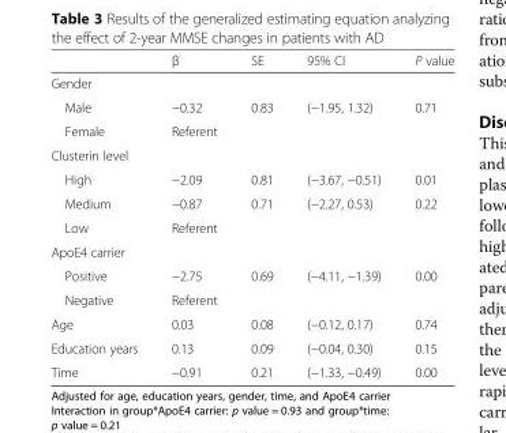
<table><thead><tr><td></td><td>β</td><td>SE</td><td>95% CI</td><td>P value</td></tr></thead><tbody><tr><td colspan="5">Gender</td></tr><tr><td>Male</td><td>−0.32</td><td>0.83</td><td>(−1.95, 1.32)</td><td>0.71</td></tr><tr><td>Female</td><td>Referent</td><td></td><td></td><td></td></tr><tr><td colspan="5">Clusterin level</td></tr><tr><td>High</td><td>−2.09</td><td>0.81</td><td>(−3.67, −0.51)</td><td>0.01</td></tr><tr><td>Medium</td><td>−0.87</td><td>0.71</td><td>(−2.27, 0.53)</td><td>0.22</td></tr><tr><td>Low</td><td>Referent</td><td></td><td></td><td></td></tr><tr><td colspan="5">ApoE4 carrier</td></tr><tr><td>Positive</td><td>−2.75</td><td>0.69</td><td>(−4.11, −1.39)</td><td>0.00</td></tr><tr><td>Negative</td><td>Referent</td><td></td><td></td><td></td></tr><tr><td>Age</td><td>0.03</td><td>0.08</td><td>(−0.12, 0.17)</td><td>0.74</td></tr><tr><td>Education years</td><td>0.13</td><td>0.09</td><td>(−0.04, 0.30)</td><td>0.15</td></tr><tr><td>Time</td><td>−0.91</td><td>0.21</td><td>(−1.33, −0.49)</td><td>0.00</td></tr></tbody></table>